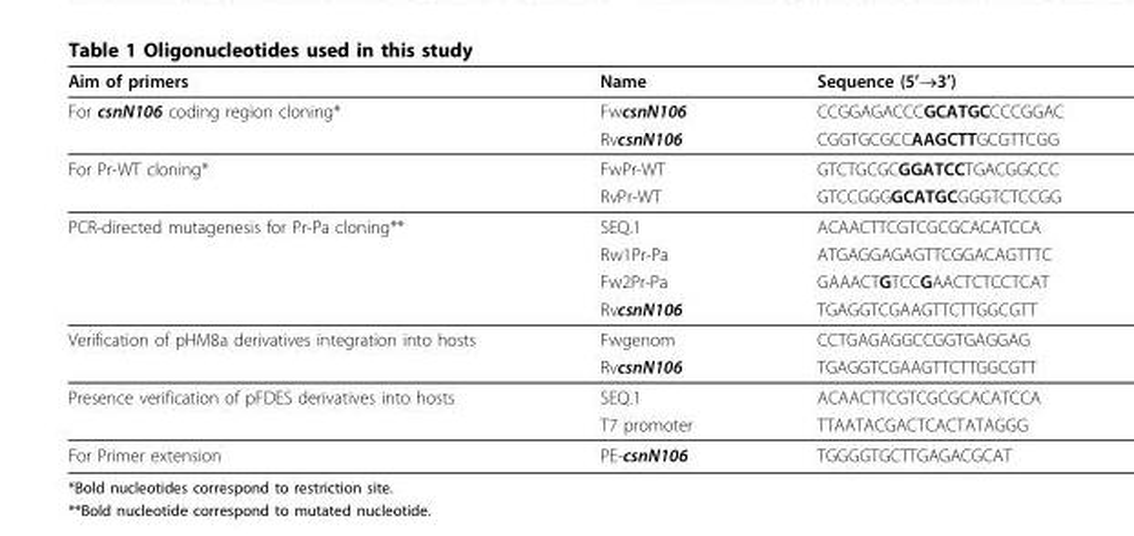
<table><thead><tr><td>Aim of primers</td><td>Name</td><td>Sequence (5’→3’)</td></tr></thead><tbody><tr><td rowspan="2">For csnN106 coding region cloning*</td><td>FwcsnN106</td><td>CCGGAGACCCGCATGCCCCGGAC</td></tr><tr><td>RvcsnN106</td><td>CGGTGCGCCAAGCTTGCGTTCGG</td></tr><tr><td rowspan="2">For Pr-WT cloning*</td><td>FwPr-WT</td><td>GTCTGCGCGGATCCTGACGGCCC</td></tr><tr><td>RvPr-WT</td><td>GTCCGGGGCATGCGGGTCTCCGG</td></tr><tr><td rowspan="4">PCR-directed mutagenesis for Pr-Pa cloning**</td><td>SEQ.1</td><td>ACAACTTCGTCGCGCACATCCA</td></tr><tr><td>Rw1Pr-Pa</td><td>ATGAGGAGAGTTCGGACAGTTTC</td></tr><tr><td>Fw2Pr-Pa</td><td>GAAACTGTCCGAACTCTCCTCAT</td></tr><tr><td>RvcsnN106</td><td>TGAGGTCGAAGTTCTTGGCGTT</td></tr><tr><td rowspan="2">Verification of pHM8a derivatives integration into hosts</td><td>Fwgenom</td><td>CCTGAGAGGCCGGTGAGGAG</td></tr><tr><td>RvcsnN106</td><td>TGAGGTCGAAGTTCTTGGCGTT</td></tr><tr><td rowspan="2">Presence verification of pFDES derivatives into hosts</td><td>SEQ.1</td><td>ACAACTTCGTCGCGCACATCCA</td></tr><tr><td>T7 promoter</td><td>TTAATACGACTCACTATAGGG</td></tr><tr><td>For Primer extension</td><td>PE-csnN106</td><td>TGGGGTGCTTGAGACGCAT</td></tr></tbody></table>